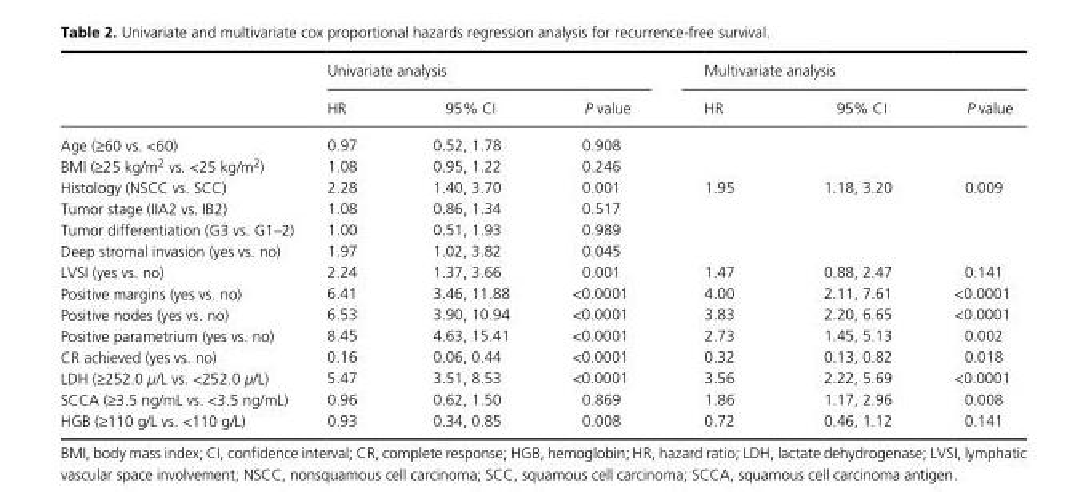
<table><thead><tr><td rowspan="2"></td><td colspan="3">Univariate analysis</td><td colspan="3">Multivariate analysis</td></tr><tr><td>HR</td><td>95% CI</td><td>P value</td><td>HR</td><td>95% CI</td><td>P value</td></tr></thead><tbody><tr><td>Age (≥60 vs. &lt;60)</td><td>0.97</td><td>0.52, 1.78</td><td>0.908</td><td></td><td></td><td></td></tr><tr><td>BMI (≥25 kg/m<sup>2</sup> vs. &lt;25 kg/m<sup>2</sup>)</td><td>1.08</td><td>0.95, 1.22</td><td>0.246</td><td></td><td></td><td></td></tr><tr><td>Histology (NSCC vs. SCC)</td><td>2.28</td><td>1.40, 3.70</td><td>0.001</td><td>1.95</td><td>1.18, 3.20</td><td>0.009</td></tr><tr><td>Tumor stage (IIA2 vs. IB2)</td><td>1.08</td><td>0.86, 1.34</td><td>0.517</td><td></td><td></td><td></td></tr><tr><td>Tumor differentiation (G3 vs. G1–2)</td><td>1.00</td><td>0.51, 1.93</td><td>0.989</td><td></td><td></td><td></td></tr><tr><td>Deep stromal invasion (yes vs. no)</td><td>1.97</td><td>1.02, 3.82</td><td>0.045</td><td></td><td></td><td></td></tr><tr><td>LVSI (yes vs. no)</td><td>2.24</td><td>1.37, 3.66</td><td>0.001</td><td>1.47</td><td>0.88, 2.47</td><td>0.141</td></tr><tr><td>Positive margins (yes vs. no)</td><td>6.41</td><td>3.46, 11.88</td><td>&lt;0.0001</td><td>4.00</td><td>2.11, 7.61</td><td>&lt;0.0001</td></tr><tr><td>Positive nodes (yes vs. no)</td><td>6.53</td><td>3.90, 10.94</td><td>&lt;0.0001</td><td>3.83</td><td>2.20, 6.65</td><td>&lt;0.0001</td></tr><tr><td>Positive parametrium (yes vs. no)</td><td>8.45</td><td>4.63, 15.41</td><td>&lt;0.0001</td><td>2.73</td><td>1.45, 5.13</td><td>0.002</td></tr><tr><td>CR achieved (yes vs. no)</td><td>0.16</td><td>0.06, 0.44</td><td>&lt;0.0001</td><td>0.32</td><td>0.13, 0.82</td><td>0.018</td></tr><tr><td>LDH (≥252.0 μ/L vs. &lt;252.0 μ/L)</td><td>5.47</td><td>3.51, 8.53</td><td>&lt;0.0001</td><td>3.56</td><td>2.22, 5.69</td><td>&lt;0.0001</td></tr><tr><td>SCCA (≥3.5 ng/mL vs. &lt;3.5 ng/mL)</td><td>0.96</td><td>0.62, 1.50</td><td>0.869</td><td>1.86</td><td>1.17, 2.96</td><td>0.008</td></tr><tr><td>HGB (≥110 g/L vs. &lt;110 g/L)</td><td>0.93</td><td>0.34, 0.85</td><td>0.008</td><td>0.72</td><td>0.46, 1.12</td><td>0.141</td></tr></tbody></table>